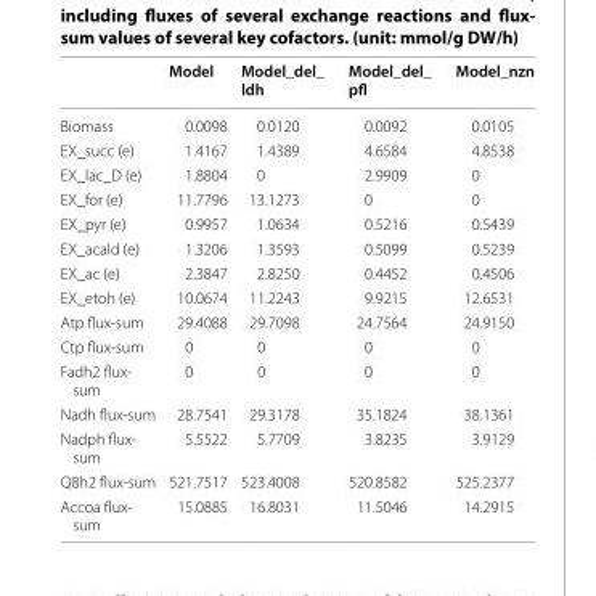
<table><thead><tr><td></td><td>Model</td><td>Model_del_ ldh</td><td>Model_del_ pfl</td><td>Model_nzn</td></tr></thead><tbody><tr><td>Biomass</td><td>0.0098</td><td>0.0120</td><td>0.0092</td><td>0.0105</td></tr><tr><td>EX_succ (e)</td><td>1.4167</td><td>1.4389</td><td>4.6584</td><td>4.8538</td></tr><tr><td>EX_lac_D (e)</td><td>1.8804</td><td>0</td><td>2.9909</td><td>0</td></tr><tr><td>EX_for (e)</td><td>11.7796</td><td>13.1273</td><td>0</td><td>0</td></tr><tr><td>EX_pyr (e)</td><td>0.9957</td><td>1.0634</td><td>0.5216</td><td>0.5439</td></tr><tr><td>EX_acald (e)</td><td>1.3206</td><td>1.3593</td><td>0.5099</td><td>0.5239</td></tr><tr><td>EX_ac (e)</td><td>2.3847</td><td>2.8250</td><td>0.4452</td><td>0.4506</td></tr><tr><td>EX_etoh (e)</td><td>10.0674</td><td>11.2243</td><td>9.9215</td><td>12.6531</td></tr><tr><td>Atp flux-sum</td><td>29.4088</td><td>29.7098</td><td>24.7564</td><td>24.9150</td></tr><tr><td>Ctp flux-sum</td><td>0</td><td>0</td><td>0</td><td>0</td></tr><tr><td>Fadh2 flux- sum</td><td>0</td><td>0</td><td>0</td><td>0</td></tr><tr><td>Nadh flux-sum</td><td>28.7541</td><td>29.3178</td><td>35.1824</td><td>38.1361</td></tr><tr><td>Nadph flux- sum</td><td>5.5522</td><td>5.7709</td><td>3.8235</td><td>3.9129</td></tr><tr><td>Q8h2 flux-sum</td><td>521.7517</td><td>523.4008</td><td>520.8582</td><td>525.2377</td></tr><tr><td>Accoa flux- sum</td><td>15.0885</td><td>16.8031</td><td>11.5046</td><td>14.2915</td></tr></tbody></table>